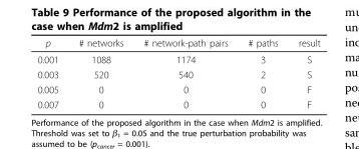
<table><thead><tr><td>p</td><td># networks</td><td># network-path pairs</td><td># paths</td><td>result</td></tr></thead><tbody><tr><td>0.001</td><td>1088</td><td>1174</td><td>3</td><td>S</td></tr><tr><td>0.003</td><td>520</td><td>540</td><td>2</td><td>S</td></tr><tr><td>0.005</td><td>0</td><td>0</td><td>0</td><td>F</td></tr><tr><td>0.007</td><td>0</td><td>0</td><td>0</td><td>F</td></tr></tbody></table>